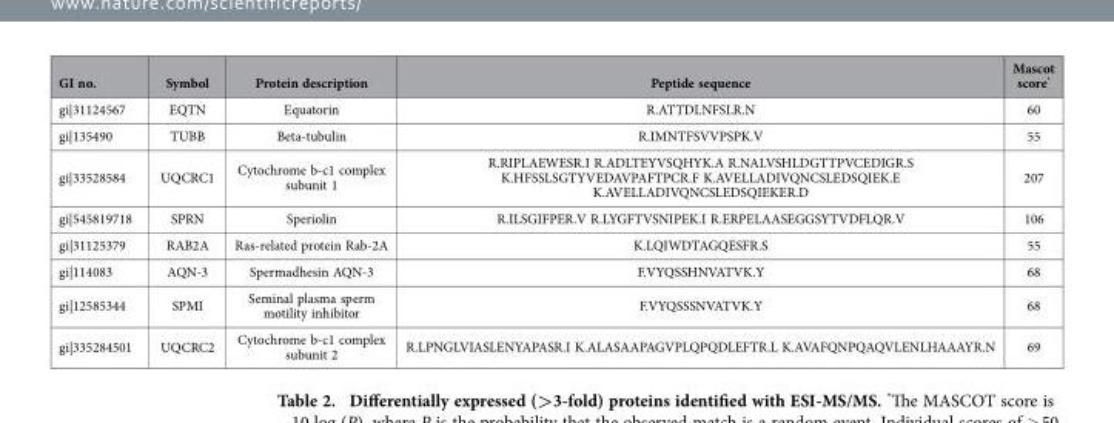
<table><thead><tr><td>GI no.</td><td>Symbol</td><td>Protein description</td><td>Peptide sequence</td><td>Mascot score*</td></tr></thead><tbody><tr><td>gi|31124567</td><td>EQTN</td><td>Equatorin</td><td>R.ATTDLNFSLR.N</td><td>60</td></tr><tr><td>gi|135490</td><td>TUBB</td><td>Beta-tubulin</td><td>R.IMNTFSVVPSPK.V</td><td>55</td></tr><tr><td>gi|33528584</td><td>UQCRC1</td><td>Cytochrome b-c1 complex subunit 1</td><td>R.RIPLAEWESR.I R.ADLTEYVSQHYK.A R.NALVSHLDGTTPVCEDIGR.S K.HFSSLSGTYVEDAVPAFTPCR.F K.AVELLADIVQNCSLEDSQIEK.E K.AVELLADIVQNCSLEDSQIEKER.D</td><td>207</td></tr><tr><td>gi|545819718</td><td>SPRN</td><td>Speriolin</td><td>R.ILSGIFPER.V R.LYGFTVSNIPEK.I R.ERPELAASEGGSYTVDFLQR.V</td><td>106</td></tr><tr><td>gi|31125379</td><td>RAB2A</td><td>Ras-related protein Rab-2A</td><td>K.LQIWDTAGQESFR.S</td><td>55</td></tr><tr><td>gi|114083</td><td>AQN-3</td><td>Spermadhesin AQN-3</td><td>F.VYQSSHNVATVK.Y</td><td>68</td></tr><tr><td>gi|12585344</td><td>SPMI</td><td>Seminal plasma sperm motility inhibitor</td><td>F.VYQSSSNVATVK.Y</td><td>68</td></tr><tr><td>gi|335284501</td><td>UQCRC2</td><td>Cytochrome b-c1 complex subunit 2</td><td>R.LPNGLVIASLENYAPASR.I K.ALASAAPAGVPLQPQDLEFTR.L K.AVAFQNPQAQVLENLHAAAYR.N</td><td>69</td></tr></tbody></table>